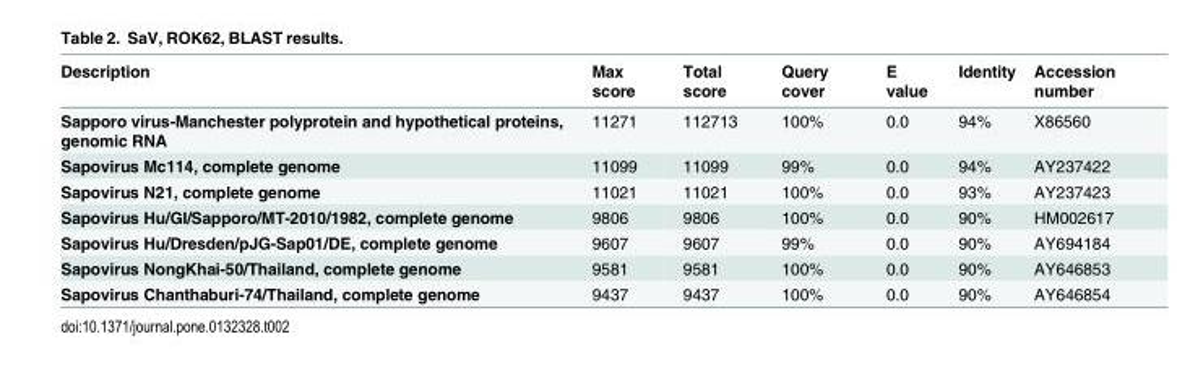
<table><thead><tr><td>Description</td><td>Max score</td><td>Total score</td><td>Query cover</td><td>E value</td><td>Identity</td><td>Accession number</td></tr></thead><tbody><tr><td>Sapporo virus-Manchester polyprotein and hypothetical proteins, genomic RNA</td><td>11271</td><td>112713</td><td>100%</td><td>0.0</td><td>94%</td><td>X86560</td></tr><tr><td>Sapovirus Mc114, complete genome</td><td>11099</td><td>11099</td><td>99%</td><td>0.0</td><td>94%</td><td>AY237422</td></tr><tr><td>Sapovirus N21, complete genome</td><td>11021</td><td>11021</td><td>100%</td><td>0.0</td><td>93%</td><td>AY237423</td></tr><tr><td>Sapovirus Hu/GI/Sapporo/MT-2010/1982, complete genome</td><td>9806</td><td>9806</td><td>100%</td><td>0.0</td><td>90%</td><td>HM002617</td></tr><tr><td>Sapovirus Hu/Dresden/pJG-Sap01/DE, complete genome</td><td>9607</td><td>9607</td><td>99%</td><td>0.0</td><td>90%</td><td>AY694184</td></tr><tr><td>Sapovirus NongKhai-50/Thailand, complete genome</td><td>9581</td><td>9581</td><td>100%</td><td>0.0</td><td>90%</td><td>AY646853</td></tr><tr><td>Sapovirus Chanthaburi-74/Thailand, complete genome</td><td>9437</td><td>9437</td><td>100%</td><td>0.0</td><td>90%</td><td>AY646854</td></tr></tbody></table>